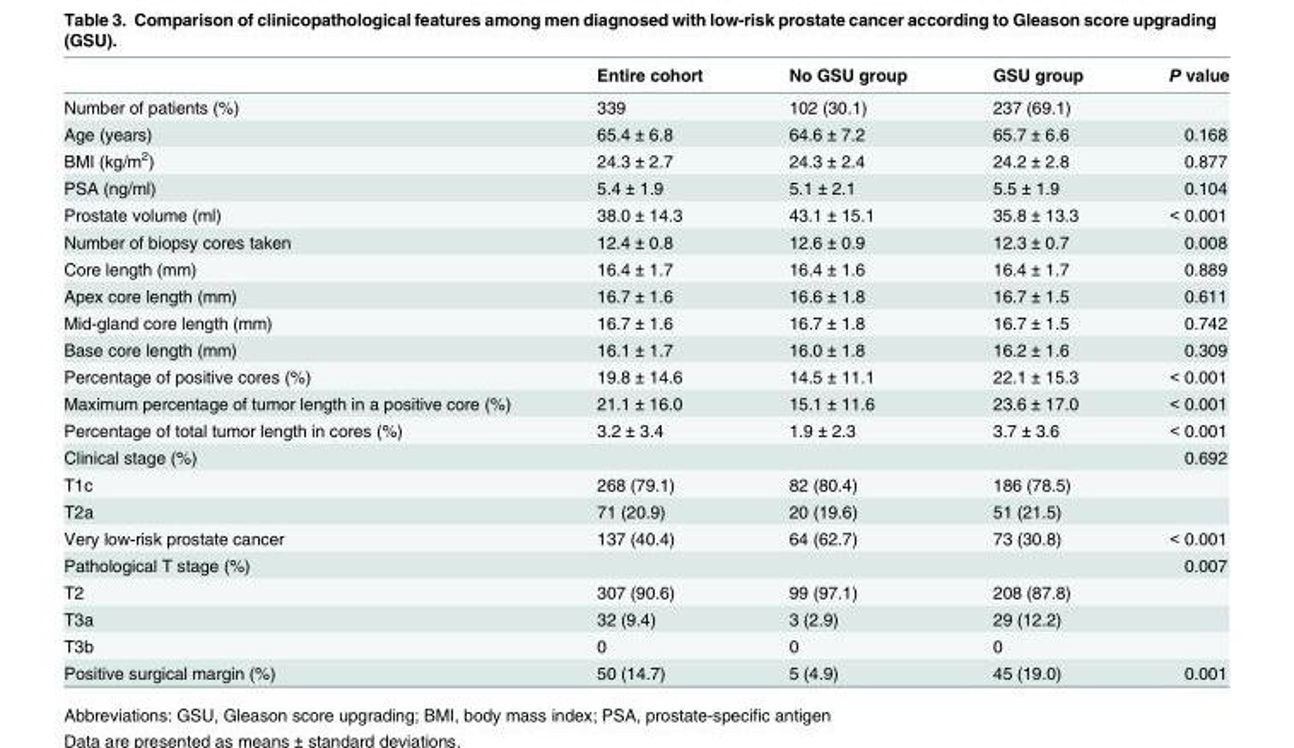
<table><thead><tr><td></td><td>Entire cohort</td><td>No GSU group</td><td>GSU group</td><td>P value</td></tr></thead><tbody><tr><td>Number of patients (%)</td><td>339</td><td>102 (30.1)</td><td>237 (69.1)</td><td></td></tr><tr><td>Age (years)</td><td>65.4 ± 6.8</td><td>64.6 ± 7.2</td><td>65.7 ± 6.6</td><td>0.168</td></tr><tr><td>BMI (kg/m<sup>2</sup>)</td><td>24.3 ± 2.7</td><td>24.3 ± 2.4</td><td>24.2 ± 2.8</td><td>0.877</td></tr><tr><td>PSA (ng/ml)</td><td>5.4 ± 1.9</td><td>5.1 ± 2.1</td><td>5.5 ± 1.9</td><td>0.104</td></tr><tr><td>Prostate volume (ml)</td><td>38.0 ± 14.3</td><td>43.1 ± 15.1</td><td>35.8 ± 13.3</td><td>&lt; 0.001</td></tr><tr><td>Number of biopsy cores taken</td><td>12.4 ± 0.8</td><td>12.6 ± 0.9</td><td>12.3 ± 0.7</td><td>0.008</td></tr><tr><td>Core length (mm)</td><td>16.4 ± 1.7</td><td>16.4 ± 1.6</td><td>16.4 ± 1.7</td><td>0.889</td></tr><tr><td>Apex core length (mm)</td><td>16.7 ± 1.6</td><td>16.6 ± 1.8</td><td>16.7 ± 1.5</td><td>0.611</td></tr><tr><td>Mid-gland core length (mm)</td><td>16.7 ± 1.6</td><td>16.7 ± 1.8</td><td>16.7 ± 1.5</td><td>0.742</td></tr><tr><td>Base core length (mm)</td><td>16.1 ± 1.7</td><td>16.0 ± 1.8</td><td>16.2 ± 1.6</td><td>0.309</td></tr><tr><td>Percentage of positive cores (%)</td><td>19.8 ± 14.6</td><td>14.5 ± 11.1</td><td>22.1 ± 15.3</td><td>&lt; 0.001</td></tr><tr><td>Maximum percentage of tumor length in a positive core (%)</td><td>21.1 ± 16.0</td><td>15.1 ± 11.6</td><td>23.6 ± 17.0</td><td>&lt; 0.001</td></tr><tr><td>Percentage of total tumor length in cores (%)</td><td>3.2 ± 3.4</td><td>1.9 ± 2.3</td><td>3.7 ± 3.6</td><td>&lt; 0.001</td></tr><tr><td>Clinical stage (%)</td><td></td><td></td><td></td><td>0.692</td></tr><tr><td>T1c</td><td>268 (79.1)</td><td>82 (80.4)</td><td>186 (78.5)</td><td></td></tr><tr><td>T2a</td><td>71 (20.9)</td><td>20 (19.6)</td><td>51 (21.5)</td><td></td></tr><tr><td>Very low-risk prostate cancer</td><td>137 (40.4)</td><td>64 (62.7)</td><td>73 (30.8)</td><td>&lt; 0.001</td></tr><tr><td>Pathological T stage (%)</td><td></td><td></td><td></td><td>0.007</td></tr><tr><td>T2</td><td>307 (90.6)</td><td>99 (97.1)</td><td>208 (87.8)</td><td></td></tr><tr><td>T3a</td><td>32 (9.4)</td><td>3 (2.9)</td><td>29 (12.2)</td><td></td></tr><tr><td>T3b</td><td>0</td><td>0</td><td>0</td><td></td></tr><tr><td>Positive surgical margin (%)</td><td>50 (14.7)</td><td>5 (4.9)</td><td>45 (19.0)</td><td>0.001</td></tr></tbody></table>